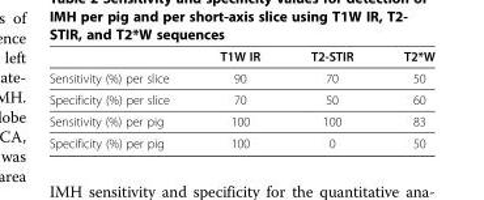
<table><thead><tr><td></td><td>T1W IR</td><td>T2-STIR</td><td>T2*W</td></tr></thead><tbody><tr><td>Sensitivity (%) per slice</td><td>90</td><td>70</td><td>50</td></tr><tr><td>Specificity (%) per slice</td><td>70</td><td>50</td><td>60</td></tr><tr><td>Sensitivity (%) per pig</td><td>100</td><td>100</td><td>83</td></tr><tr><td>Specificity (%) per pig</td><td>100</td><td>0</td><td>50</td></tr></tbody></table>